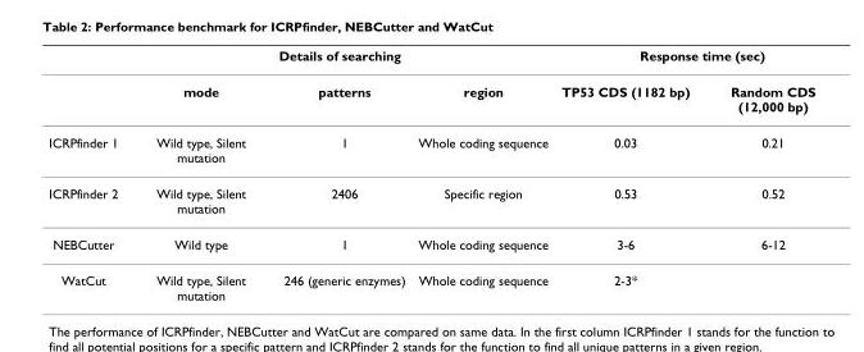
<table><thead><tr><td rowspan="2"></td><td colspan="3">Details of searching</td><td colspan="2">Response time (sec)</td></tr><tr><td>mode</td><td>patterns</td><td>region</td><td>TP53 CDS (1182 bp)</td><td>Random CDS (12,000 bp)</td></tr></thead><tbody><tr><td>ICRPfinder 1</td><td>Wild type, Silent mutation</td><td>1</td><td>Whole coding sequence</td><td>0.03</td><td>0.21</td></tr><tr><td>ICRPfinder 2</td><td>Wild type, Silent mutation</td><td>2406</td><td>Specific region</td><td>0.53</td><td>0.52</td></tr><tr><td>NEBCutter</td><td>Wild type</td><td>1</td><td>Whole coding sequence</td><td>3-6</td><td>6-12</td></tr><tr><td>WatCut</td><td>Wild type, Silent mutation</td><td>246 (generic enzymes)</td><td>Whole coding sequence</td><td>2-3*</td><td></td></tr></tbody></table>